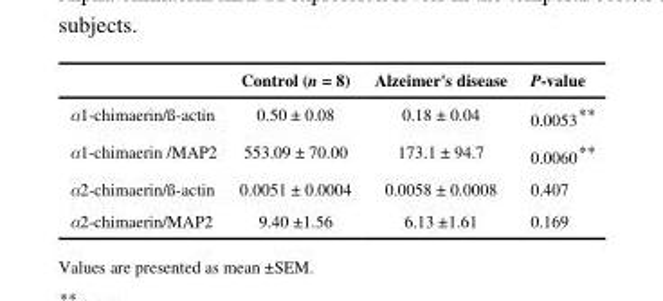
<table><thead><tr><td></td><td>Control (n = 8)</td><td>Alzeimer&#x27;s disease</td><td>P-value</td></tr></thead><tbody><tr><td>α1-chimaerin/ß-actin</td><td>0.50 ± 0.08</td><td>0.18 ± 0.04</td><td>0.0053**</td></tr><tr><td>α1-chimaerin /MAP2</td><td>553.09 ± 70.00</td><td>173.1 ± 94.7</td><td>0.0060**</td></tr><tr><td>α2-chimaerin/ß-actin</td><td>0.0051 ± 0.0004</td><td>0.0058 ± 0.0008</td><td>0.407</td></tr><tr><td>α2-chimaerin/MAP2</td><td>9.40 ±1.56</td><td>6.13 ±1.61</td><td>0.169</td></tr></tbody></table>